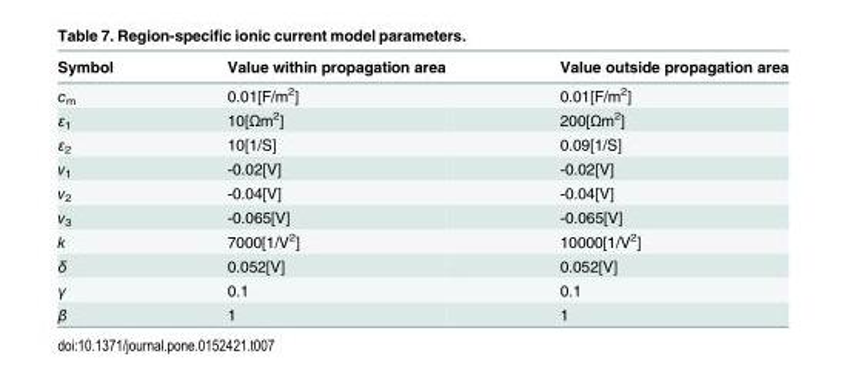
<table><thead><tr><td>Symbol</td><td>Value within propagation area</td><td>Value outside propagation area</td></tr></thead><tbody><tr><td>c<sub>m</sub></td><td>0.01[F/m<sup>2</sup>]</td><td>0.01[F/m<sup>2</sup>]</td></tr><tr><td>ε<sub>1</sub></td><td>10[Ωm<sup>2</sup>]</td><td>200[Ωm<sup>2</sup>]</td></tr><tr><td>ε<sub>2</sub></td><td>10[1/S]</td><td>0.09[1/S]</td></tr><tr><td>v<sub>1</sub></td><td>-0.02[V]</td><td>-0.02[V]</td></tr><tr><td>v<sub>2</sub></td><td>-0.04[V]</td><td>-0.04[V]</td></tr><tr><td>v<sub>3</sub></td><td>-0.065[V]</td><td>-0.065[V]</td></tr><tr><td>k</td><td>7000[1/V<sup>2</sup>]</td><td>10000[1/V<sup>2</sup>]</td></tr><tr><td>δ</td><td>0.052[V]</td><td>0.052[V]</td></tr><tr><td>γ</td><td>0.1</td><td>0.1</td></tr><tr><td>β</td><td>1</td><td>1</td></tr></tbody></table>